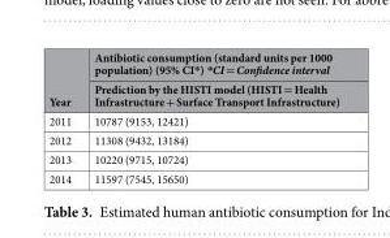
<table><thead><tr><td rowspan="2">Year</td><td rowspan="2">Antibiotic consumption (standard units per 1000 population) (95% CI*) *CI = Confidence interval Prediction by the HISTI model (HISTI = Health Infrastructure + Surface Transport Infrastructure)</td></tr><tr></tr></thead><tbody><tr><td>2011</td><td>10787 (9153, 12421)</td></tr><tr><td>2012</td><td>11308 (9432, 13184)</td></tr><tr><td>2013</td><td>10220 (9715, 10724)</td></tr><tr><td>2014</td><td>11597 (7545, 15650)</td></tr></tbody></table>